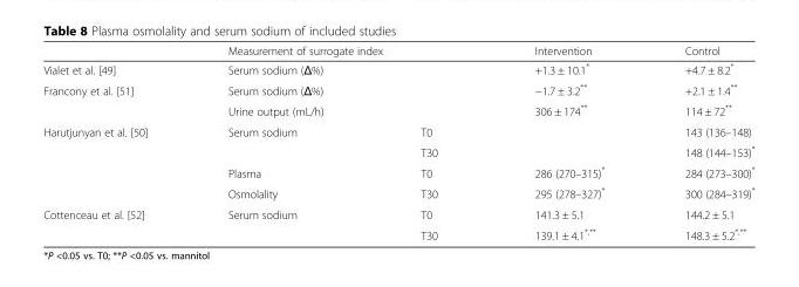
<table><thead><tr><td rowspan="2">Vialet et al. [49]</td><td colspan="2">Measurement of surrogate index</td><td rowspan="2">Intervention +1.3 ± 10.1*</td><td rowspan="2">Control +4.7 ± 8.2*</td></tr><tr><td>Serum sodium (Δ%)</td><td></td></tr></thead><tbody><tr><td rowspan="2">Francony et al. [51]</td><td>Serum sodium (Δ%)</td><td></td><td>−1.7 ± 3.2**</td><td>+2.1 ± 1.4**</td></tr><tr><td>Urine output (mL/h)</td><td></td><td>306 ± 174**</td><td>114 ± 72**</td></tr><tr><td rowspan="4">Harutjunyan et al. [50]</td><td rowspan="2">Serum sodium</td><td>T0</td><td></td><td>143 (136–148)</td></tr><tr><td>T30</td><td></td><td>148 (144–153)*</td></tr><tr><td>Plasma</td><td>T0</td><td>286 (270–315)*</td><td>284 (273–300)*</td></tr><tr><td>Osmolality</td><td>T30</td><td>295 (278–327)*</td><td>300 (284–319)*</td></tr><tr><td rowspan="2">Cottenceau et al. [52]</td><td rowspan="2">Serum sodium</td><td>T0</td><td>141.3 ± 5.1</td><td>144.2 ± 5.1</td></tr><tr><td>T30</td><td>139.1 ± 4.1<sup>*,**</sup></td><td>148.3 ± 5.2<sup>*,**</sup></td></tr></tbody></table>